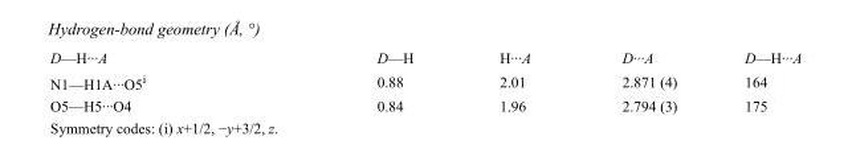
<table><tbody><tr><td>D—H···A</td><td>D—H</td><td>H···A</td><td>D···A</td><td>D—H···A</td></tr><tr><td>N1—H1A···O5<sup>i</sup></td><td>0.88</td><td>2.01</td><td>2.871 (4)</td><td>164</td></tr><tr><td>O5—H5···O4</td><td>0.84</td><td>1.96</td><td>2.794 (3)</td><td>175</td></tr></tbody></table>